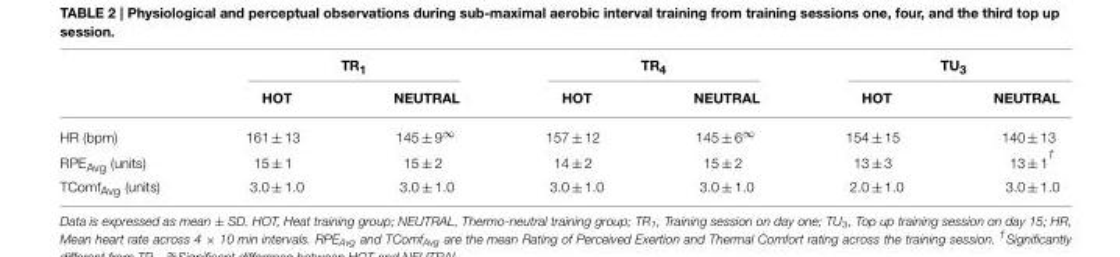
<table><thead><tr><td rowspan="2"></td><td colspan="2">TR<sub>1</sub></td><td colspan="2">TR<sub>4</sub></td><td colspan="2">TU<sub>3</sub></td></tr><tr><td>HOT</td><td>NEUTRAL</td><td>HOT</td><td>NEUTRAL</td><td>HOT</td><td>NEUTRAL</td></tr></thead><tbody><tr><td>HR (bpm)</td><td>161 ± 13</td><td>145 ± 9<sup>∞</sup></td><td>157 ± 12</td><td>145 ± 6<sup>∞</sup></td><td>154 ± 15</td><td>140 ± 13</td></tr><tr><td>RPE<sub>Avg</sub> (units)</td><td>15 ± 1</td><td>15 ± 2</td><td>14 ± 2</td><td>15 ± 2</td><td>13 ± 3</td><td>13 ± 1 <sup>†</sup></td></tr><tr><td>TComf<sub>Avg</sub> (units)</td><td>3.0 ± 1.0</td><td>3.0 ± 1.0</td><td>3.0 ± 1.0</td><td>3.0 ± 1.0</td><td>2.0 ± 1.0</td><td>3.0 ± 1.0</td></tr></tbody></table>